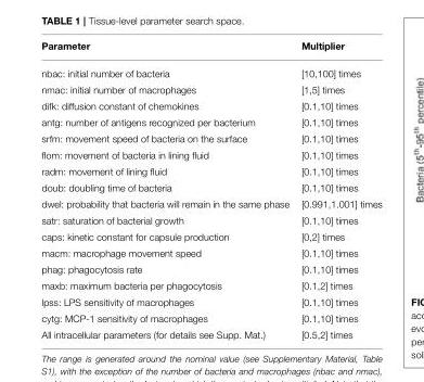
<table><thead><tr><td>Parameter</td><td>Multiplier</td></tr></thead><tbody><tr><td>nbac: initial number of bacteria</td><td>[10,100] times</td></tr><tr><td>nmac: initial number of macrophages</td><td>[1,5] times</td></tr><tr><td>difk: diffusion constant of chemokines</td><td>[0.1,10] times</td></tr><tr><td>antg: number of antigens recognized per bacterium</td><td>[0.1,10] times</td></tr><tr><td>srfm: movement speed of bacteria on the surface</td><td>[0.1,10] times</td></tr><tr><td>flom: movement of bacteria in lining fluid</td><td>[0.1,10] times</td></tr><tr><td>radm: movement of lining fluid</td><td>[0.1,10] times</td></tr><tr><td>doub: doubling time of bacteria</td><td>[0.1,10] times</td></tr><tr><td>dwel: probability that bacteria will remain in the same phase</td><td>[0.991,1.001] times</td></tr><tr><td>satr: saturation of bacterial growth</td><td>[0.1,10] times</td></tr><tr><td>caps: kinetic constant for capsule production</td><td>[0,2] times</td></tr><tr><td>macm: macrophage movement speed</td><td>[0.1,10] times</td></tr><tr><td>phag: phagocytosis rate</td><td>[0.1,10] times</td></tr><tr><td>maxb: maximum bacteria per phagocytosis</td><td>[0.1,2] times</td></tr><tr><td>lpss: LPS sensitivity of macrophages</td><td>[0.1,10] times</td></tr><tr><td>cytg: MCP-1 sensitivity of macrophages</td><td>[0.1,10] times</td></tr><tr><td>All intracellular parameters (for details see Supp. Mat.)</td><td>[0.5,2] times</td></tr></tbody></table>